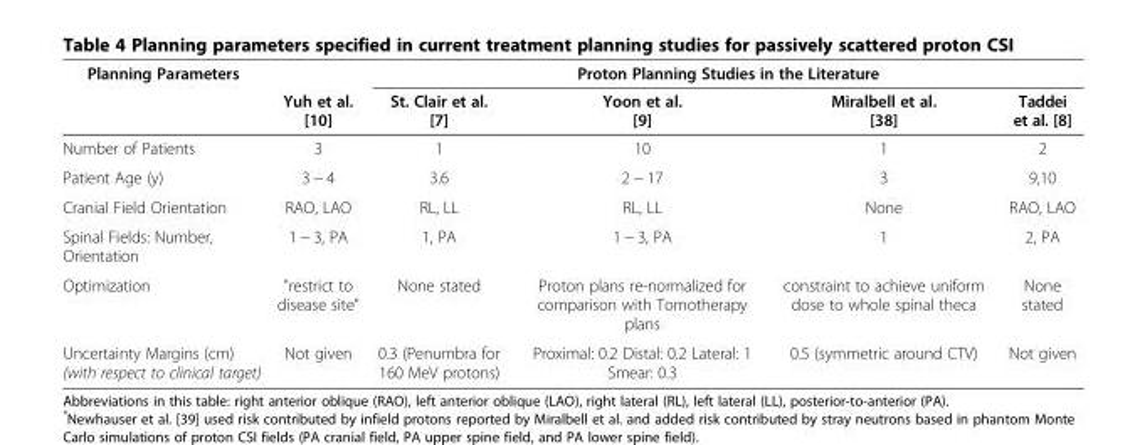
<table><thead><tr><td rowspan="2">Planning Parameters</td><td rowspan="2">Yuh et al. [10]</td><td colspan="4">Proton Planning Studies in the Literature</td></tr><tr><td>St. Clair et al. [7]</td><td>Yoon et al. [9]</td><td>Miralbell et al. [38]</td><td>Taddei et al. [8]</td></tr></thead><tbody><tr><td>Number of Patients</td><td>3</td><td>1</td><td>10</td><td>1</td><td>2</td></tr><tr><td>Patient Age (y)</td><td>3 − 4</td><td>3.6</td><td>2 − 17</td><td>3</td><td>9,10</td></tr><tr><td>Cranial Field Orientation</td><td>RAO, LAO</td><td>RL, LL</td><td>RL, LL</td><td>None</td><td>RAO, LAO</td></tr><tr><td>Spinal Fields: Number, Orientation</td><td>1 − 3, PA</td><td>1, PA</td><td>1 − 3, PA</td><td>1</td><td>2, PA</td></tr><tr><td>Optimization</td><td>&quot;restrict to disease site&quot;</td><td>None stated</td><td>Proton plans re-normalized for comparison with Tomotherapy plans</td><td>constraint to achieve uniform dose to whole spinal theca</td><td>None stated</td></tr><tr><td>Uncertainty Margins (cm) (with respect to clinical target)</td><td>Not given</td><td>0.3 (Penumbra for 160 MeV protons)</td><td>Proximal: 0.2 Distal: 0.2 Lateral: 1 Smear: 0.3</td><td>0.5 (symmetric around CTV)</td><td>Not given</td></tr></tbody></table>